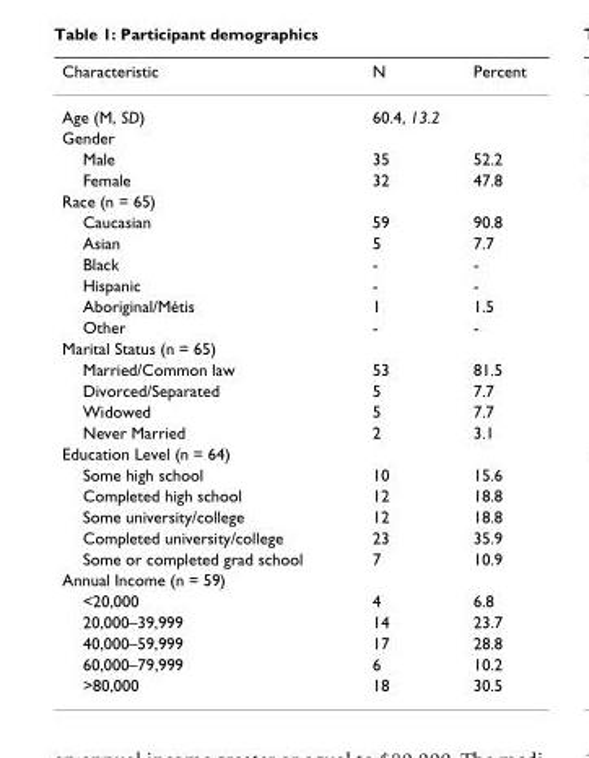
<table><thead><tr><td>Characteristic</td><td>N</td><td>Percent</td></tr></thead><tbody><tr><td>Age (M, SD)</td><td>60.4, 13.2</td><td></td></tr><tr><td colspan="3">Gender</td></tr><tr><td>Male</td><td>35</td><td>52.2</td></tr><tr><td>Female</td><td>32</td><td>47.8</td></tr><tr><td colspan="3">Race (n = 65)</td></tr><tr><td>Caucasian</td><td>59</td><td>90.8</td></tr><tr><td>Asian</td><td>5</td><td>7.7</td></tr><tr><td>Black</td><td>-</td><td>-</td></tr><tr><td>Hispanic</td><td>-</td><td>-</td></tr><tr><td>Aboriginal/Métis</td><td>1</td><td>1.5</td></tr><tr><td>Other</td><td>-</td><td>-</td></tr><tr><td colspan="3">Marital Status (n = 65)</td></tr><tr><td>Married/Common law</td><td>53</td><td>81.5</td></tr><tr><td>Divorced/Separated</td><td>5</td><td>7.7</td></tr><tr><td>Widowed</td><td>5</td><td>7.7</td></tr><tr><td>Never Married</td><td>2</td><td>3.1</td></tr><tr><td colspan="3">Education Level (n = 64)</td></tr><tr><td>Some high school</td><td>10</td><td>15.6</td></tr><tr><td>Completed high school</td><td>12</td><td>18.8</td></tr><tr><td>Some university/college</td><td>12</td><td>18.8</td></tr><tr><td>Completed university/college</td><td>23</td><td>35.9</td></tr><tr><td>Some or completed grad school</td><td>7</td><td>10.9</td></tr><tr><td colspan="3">Annual Income (n = 59)</td></tr><tr><td>&lt;20,000</td><td>4</td><td>6.8</td></tr><tr><td>20,000–39,999</td><td>14</td><td>23.7</td></tr><tr><td>40,000–59,999</td><td>17</td><td>28.8</td></tr><tr><td>60,000–79,999</td><td>6</td><td>10.2</td></tr><tr><td>&gt;80,000</td><td>18</td><td>30.5</td></tr></tbody></table>